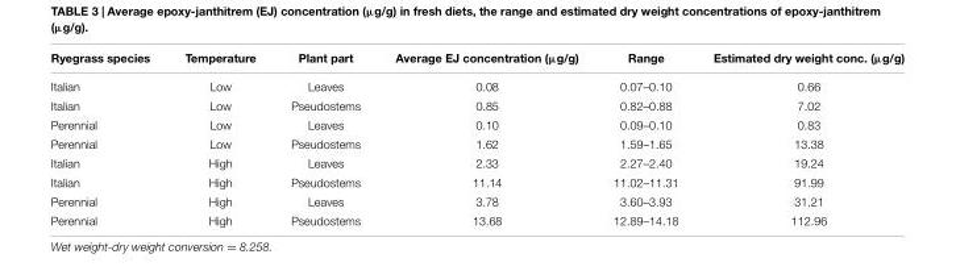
<table><thead><tr><td>Ryegrass species</td><td>Temperature</td><td>Plant part</td><td>Average EJ concentration (µg/g)</td><td>Range</td><td>Estimated dry weight conc. (µg/g)</td></tr></thead><tbody><tr><td>Italian</td><td>Low</td><td>Leaves</td><td>0.08</td><td>0.07–0.10</td><td>0.66</td></tr><tr><td>Italian</td><td>Low</td><td>Pseudostems</td><td>0.85</td><td>0.82–0.88</td><td>7.02</td></tr><tr><td>Perennial</td><td>Low</td><td>Leaves</td><td>0.10</td><td>0.09–0.10</td><td>0.83</td></tr><tr><td>Perennial</td><td>Low</td><td>Pseudostems</td><td>1.62</td><td>1.59–1.65</td><td>13.38</td></tr><tr><td>Italian</td><td>High</td><td>Leaves</td><td>2.33</td><td>2.27–2.40</td><td>19.24</td></tr><tr><td>Italian</td><td>High</td><td>Pseudostems</td><td>11.14</td><td>11.02–11.31</td><td>91.99</td></tr><tr><td>Perennial</td><td>High</td><td>Leaves</td><td>3.78</td><td>3.60–3.93</td><td>31.21</td></tr><tr><td>Perennial</td><td>High</td><td>Pseudostems</td><td>13.68</td><td>12.89–14.18</td><td>112.96</td></tr></tbody></table>